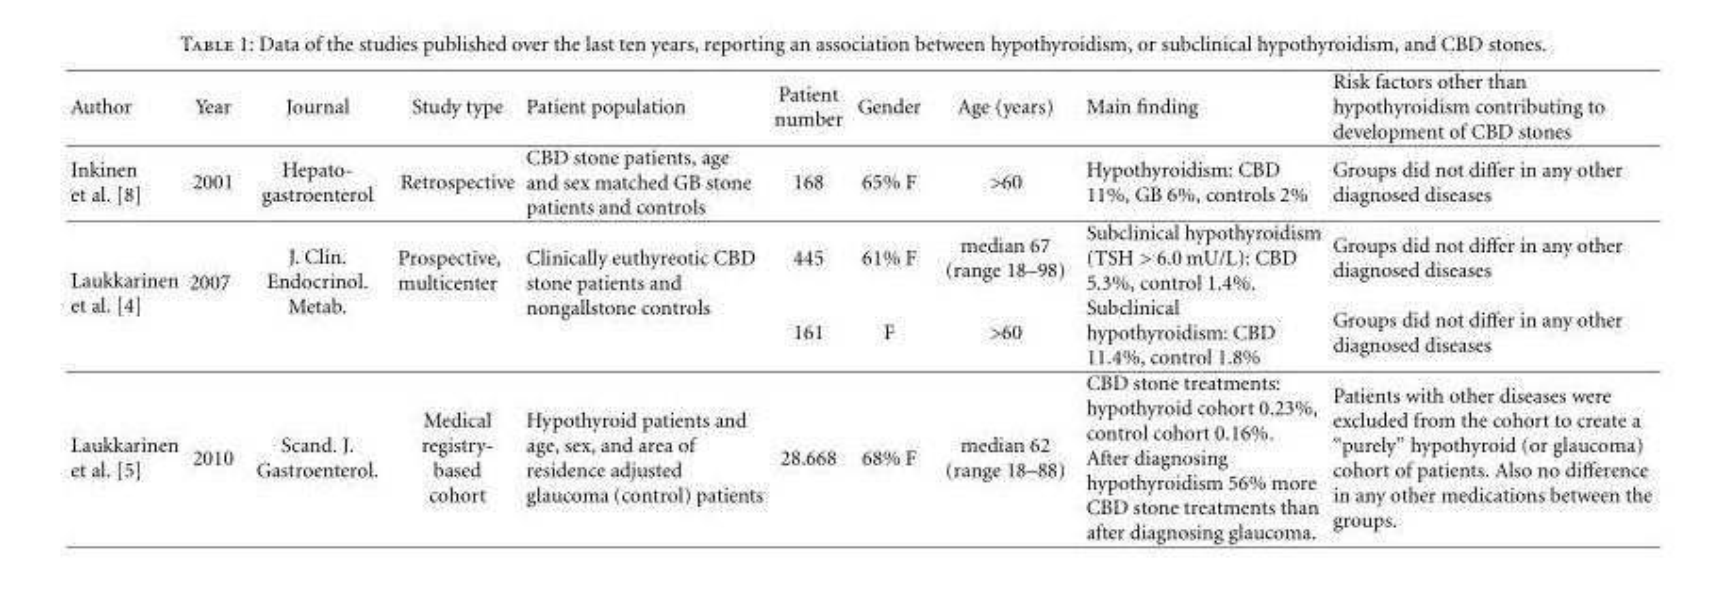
<table><thead><tr><td>Author</td><td>Year</td><td>Journal</td><td>Study type</td><td>Patient population</td><td>Patient number</td><td>Gender</td><td>Age (years)</td><td>Main finding</td><td>Risk factors other than hypothyroidism contributing to development of CBD stones</td></tr></thead><tbody><tr><td>Inkinen et al. [8]</td><td>2001</td><td>Hepato- gastroenterol</td><td>Retrospective</td><td>CBD stone patients, age and sex matched GB stone patients and controls</td><td>168</td><td>65% F</td><td>&gt;60</td><td>Hypothyroidism: CBD 11%, GB 6%, controls 2%</td><td>Groups did not differ in any other diagnosed diseases</td></tr><tr><td rowspan="2">Laukkarinen et al. [4]</td><td rowspan="2">2007</td><td rowspan="2">J. Clin. Endocrinol. Metab.</td><td rowspan="2">Prospective, multicenter</td><td rowspan="2">Clinically euthyreotic CBD stone patients and nongallstone controls</td><td>445</td><td>61% F</td><td>median 67 (range 18–98)</td><td>Subclinical hypothyroidism (TSH &gt; 6.0 mU/L): CBD 5.3%, control 1.4%.</td><td>Groups did not differ in any other diagnosed diseases</td></tr><tr><td>161</td><td>F</td><td>&gt;60</td><td>Subclinical hypothyroidism: CBD 11.4%, control 1.8%</td><td>Groups did not differ in any other diagnosed diseases</td></tr><tr><td>Laukkarinen et al. [5]</td><td>2010</td><td>Scand. J. Gastroenterol.</td><td>Medical registry- based cohort</td><td>Hypothyroid patients and age, sex, and area of residence adjusted glaucoma (control) patients</td><td>28.668</td><td>68% F</td><td>median 62 (range 18–88)</td><td>CBD stone treatments: hypothyroid cohort 0.23%, control cohort 0.16%. After diagnosing hypothyroidism 56% more CBD stone treatments than after diagnosing glaucoma.</td><td>Patients with other diseases were excluded from the cohort to create a “purely” hypothyroid (or glaucoma) cohort of patients. Also no difference in any other medications between the groups.</td></tr></tbody></table>